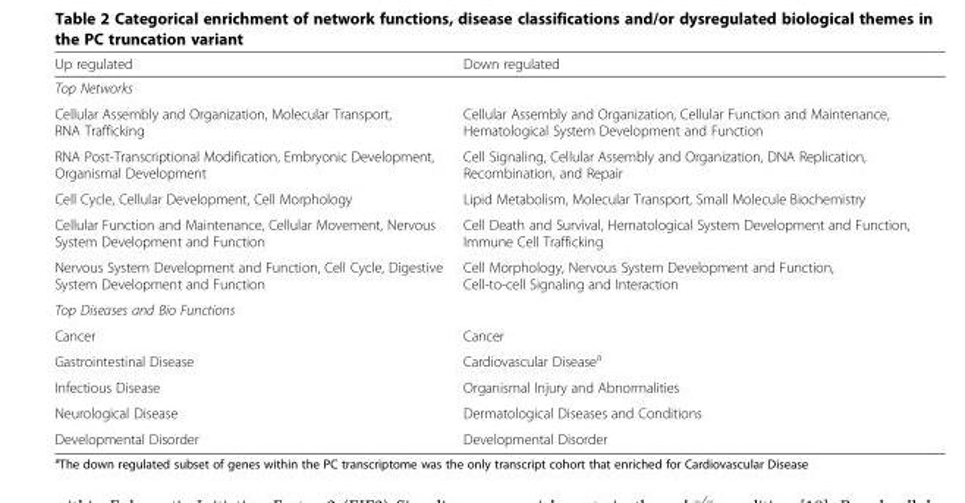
<table><tbody><tr><td>Up regulated</td><td>Down regulated</td></tr><tr><td colspan="2">Top Networks</td></tr><tr><td>Cellular Assembly and Organization, Molecular Transport, RNA Trafficking</td><td>Cellular Assembly and Organization, Cellular Function and Maintenance, Hematological System Development and Function</td></tr><tr><td>RNA Post-Transcriptional Modification, Embryonic Development, Organismal Development</td><td>Cell Signaling, Cellular Assembly and Organization, DNA Replication, Recombination, and Repair</td></tr><tr><td>Cell Cycle, Cellular Development, Cell Morphology</td><td>Lipid Metabolism, Molecular Transport, Small Molecule Biochemistry</td></tr><tr><td>Cellular Function and Maintenance, Cellular Movement, Nervous System Development and Function</td><td>Cell Death and Survival, Hematological System Development and Function, Immune Cell Trafficking</td></tr><tr><td>Nervous System Development and Function, Cell Cycle, Digestive System Development and Function</td><td>Cell Morphology, Nervous System Development and Function, Cell-to-cell Signaling and Interaction</td></tr><tr><td colspan="2">Top Diseases and Bio Functions</td></tr><tr><td>Cancer</td><td>Cancer</td></tr><tr><td>Gastrointestinal Disease</td><td>Cardiovascular Disease<sup>a</sup></td></tr><tr><td>Infectious Disease</td><td>Organismal Injury and Abnormalities</td></tr><tr><td>Neurological Disease</td><td>Dermatological Diseases and Conditions</td></tr><tr><td>Developmental Disorder</td><td>Developmental Disorder</td></tr></tbody></table>